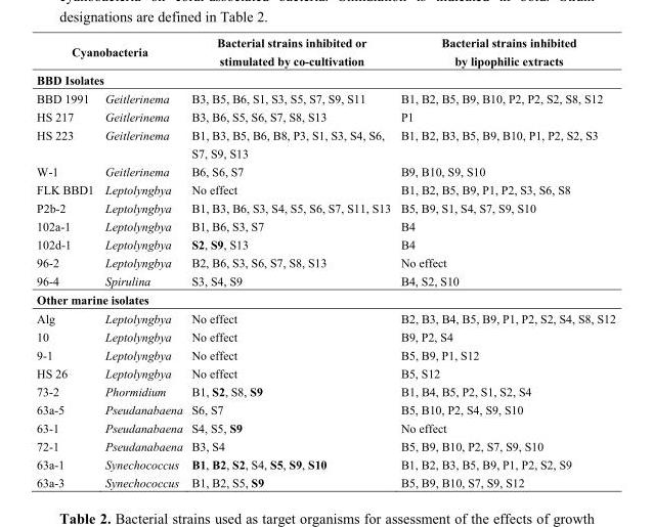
<table><thead><tr><td colspan="2">Cyanobacteria</td><td>Bacterial strains inhibited or stimulated by co-cultivation</td><td>Bacterial strains inhibited by lipophilic extracts</td></tr><tr><td colspan="4">BBD Isolates</td></tr><tr><td>BBD 1991</td><td>Geitlerinema</td><td>B3, B5, B6, S1, S3, S5, S7, S9, S11</td><td>B1, B2, B5, B9, B10, P2, P2, S2, S8, S12</td></tr></thead><tbody><tr><td>HS 217</td><td>Geitlerinema</td><td>B3, B6, S5, S6, S7, S8, S13</td><td>P1</td></tr><tr><td>HS 223</td><td>Geitlerinema</td><td>B1, B3, B5, B6, B8, P3, S1, S3, S4, S6, S7, S9, S13</td><td>B1, B2, B3, B5, B9, B10, P1, P2, S2, S3</td></tr><tr><td>W-1</td><td>Geitlerinema</td><td>B6, S6, S7</td><td>B9, B10, S9, S10</td></tr><tr><td>FLK BBD1</td><td>Leptolyngbya</td><td>No effect</td><td>B1, B2, B5, B9, P1, P2, S3, S6, S8</td></tr><tr><td>P2b-2</td><td>Leptolyngbya</td><td>B1, B3, B6, S3, S4, S5, S6, S7, S11, S13</td><td>B5, B9, S1, S4, S7, S9, S10</td></tr><tr><td>102a-1</td><td>Leptolyngbya</td><td>B1, B6, S3, S7</td><td>B4</td></tr><tr><td>102d-1</td><td>Leptolyngbya</td><td>S2, S9, S13</td><td>B4</td></tr><tr><td>96-2</td><td>Leptolyngbya</td><td>B2, B6, S3, S6, S7, S8, S13</td><td>No effect</td></tr><tr><td>96-4</td><td>Spirulina</td><td>S3, S4, S9</td><td>B4, S2, S10</td></tr><tr><td colspan="4">Other marine isolates</td></tr><tr><td>Alg</td><td>Leptolyngbya</td><td>No effect</td><td>B2, B3, B4, B5, B9, P1, P2, S2, S4, S8, S12</td></tr><tr><td>10</td><td>Leptolyngbya</td><td>No effect</td><td>B9, P2, S4</td></tr><tr><td>9-1</td><td>Leptolyngbya</td><td>No effect</td><td>B5, B9, P1, S12</td></tr><tr><td>HS 26</td><td>Leptolyngbya</td><td>No effect</td><td>B5, S12</td></tr><tr><td>73-2</td><td>Phormidium</td><td>B1, S2, S8, S9</td><td>B1, B4, B5, P2, S1, S2, S4</td></tr><tr><td>63a-5</td><td>Pseudanabaena</td><td>S6, S7</td><td>B5, B10, P2, S4, S9, S10</td></tr><tr><td>63-1</td><td>Pseudanabaena</td><td>S4, S5, S9</td><td>No effect</td></tr><tr><td>72-1</td><td>Pseudanabaena</td><td>B3, S4</td><td>B5, B9, B10, P2, S7, S9, S10</td></tr><tr><td>63a-1</td><td>Synechococcus</td><td>B1, B2, S2, S4, S5, S9, S10</td><td>B1, B2, B3, B5, B9, P1, P2, S2, S9</td></tr><tr><td>63a-3</td><td>Synechococcus</td><td>B1, B2, S5, S9</td><td>B5, B9, B10, S7, S9, S12</td></tr></tbody></table>